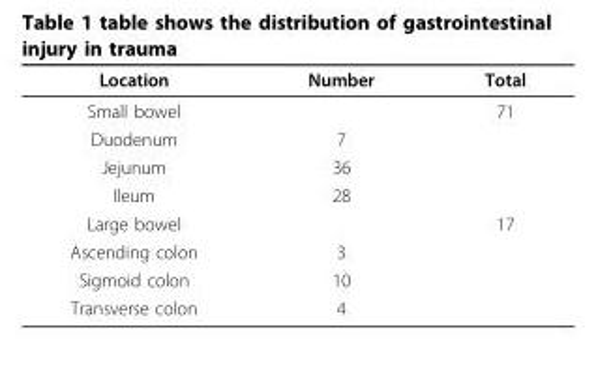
<table><thead><tr><td>Location</td><td>Number</td><td>Total</td></tr></thead><tbody><tr><td>Small bowel</td><td></td><td>71</td></tr><tr><td>Duodenum</td><td>7</td><td></td></tr><tr><td>Jejunum</td><td>36</td><td></td></tr><tr><td>Ileum</td><td>28</td><td></td></tr><tr><td>Large bowel</td><td></td><td>17</td></tr><tr><td>Ascending colon</td><td>3</td><td></td></tr><tr><td>Sigmoid colon</td><td>10</td><td></td></tr><tr><td>Transverse colon</td><td>4</td><td></td></tr></tbody></table>